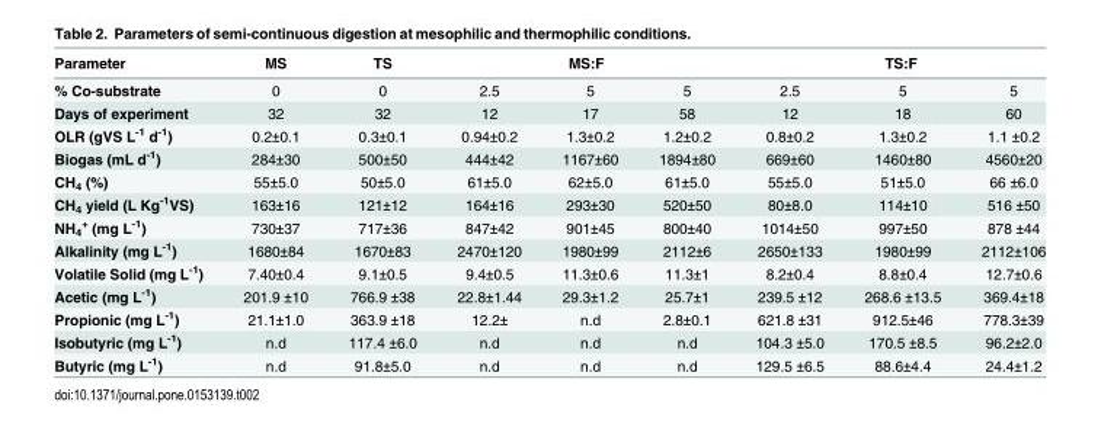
<table><thead><tr><td rowspan="2">Parameter % Co-substrate</td><td rowspan="2">MS 0</td><td rowspan="2">TS 0</td><td colspan="3">MS:F</td><td colspan="3">TS:F</td></tr><tr><td>2.5</td><td>5</td><td>5</td><td>2.5</td><td>5</td><td>5</td></tr></thead><tbody><tr><td>Days of experiment</td><td>32</td><td>32</td><td>12</td><td>17</td><td>58</td><td>12</td><td>18</td><td>60</td></tr><tr><td>OLR (gVS L<sup>-1</sup> d<sup>-1</sup>)</td><td>0.2±0.1</td><td>0.3±0.1</td><td>0.94±0.2</td><td>1.3±0.2</td><td>1.2±0.2</td><td>0.8±0.2</td><td>1.3±0.2</td><td>1.1 ±0.2</td></tr><tr><td>Biogas (mL d<sup>-1</sup>)</td><td>284±30</td><td>500±50</td><td>444±42</td><td>1167±60</td><td>1894±80</td><td>669±60</td><td>1460±80</td><td>4560±20</td></tr><tr><td>CH<sub>4</sub> (%)</td><td>55±5.0</td><td>50±5.0</td><td>61±5.0</td><td>62±5.0</td><td>61±5.0</td><td>55±5.0</td><td>51±5.0</td><td>66 ±6.0</td></tr><tr><td>CH<sub>4</sub> yield (L Kg<sup>-1</sup>VS)</td><td>163±16</td><td>121±12</td><td>164±16</td><td>293±30</td><td>520±50</td><td>80±8.0</td><td>114±10</td><td>516 ±50</td></tr><tr><td>NH<sub>4</sub> <sup>+</sup> (mg L<sup>-1</sup>)</td><td>730±37</td><td>717±36</td><td>847±42</td><td>901±45</td><td>800±40</td><td>1014±50</td><td>997±50</td><td>878 ±44</td></tr><tr><td>Alkalinity (mg L<sup>-1</sup>)</td><td>1680±84</td><td>1670±83</td><td>2470±120</td><td>1980±99</td><td>2112±6</td><td>2650±133</td><td>1980±99</td><td>2112±106</td></tr><tr><td>Volatile Solid (mg L<sup>-1</sup>)</td><td>7.40±0.4</td><td>9.1±0.5</td><td>9.4±0.5</td><td>11.3±0.6</td><td>11.3±1</td><td>8.2±0.4</td><td>8.8±0.4</td><td>12.7±0.6</td></tr><tr><td>Acetic (mg L<sup>-1</sup>)</td><td>201.9 ±10</td><td>766.9 ±38</td><td>22.8±1.44</td><td>29.3±1.2</td><td>25.7±1</td><td>239.5 ±12</td><td>268.6 ±13.5</td><td>369.4±18</td></tr><tr><td>Propionic (mg L<sup>-1</sup>)</td><td>21.1±1.0</td><td>363.9 ±18</td><td>12.2±</td><td>n.d</td><td>2.8±0.1</td><td>621.8 ±31</td><td>912.5±46</td><td>778.3±39</td></tr><tr><td>Isobutyric (mg L<sup>-1</sup>)</td><td>n.d</td><td>117.4 ±6.0</td><td>n.d</td><td>n.d</td><td>n.d</td><td>104.3 ±5.0</td><td>170.5 ±8.5</td><td>96.2±2.0</td></tr><tr><td>Butyric (mg L<sup>-1</sup>)</td><td>n.d</td><td>91.8±5.0</td><td>n.d</td><td>n.d</td><td>n.d</td><td>129.5 ±6.5</td><td>88.6±4.4</td><td>24.4±1.2</td></tr></tbody></table>